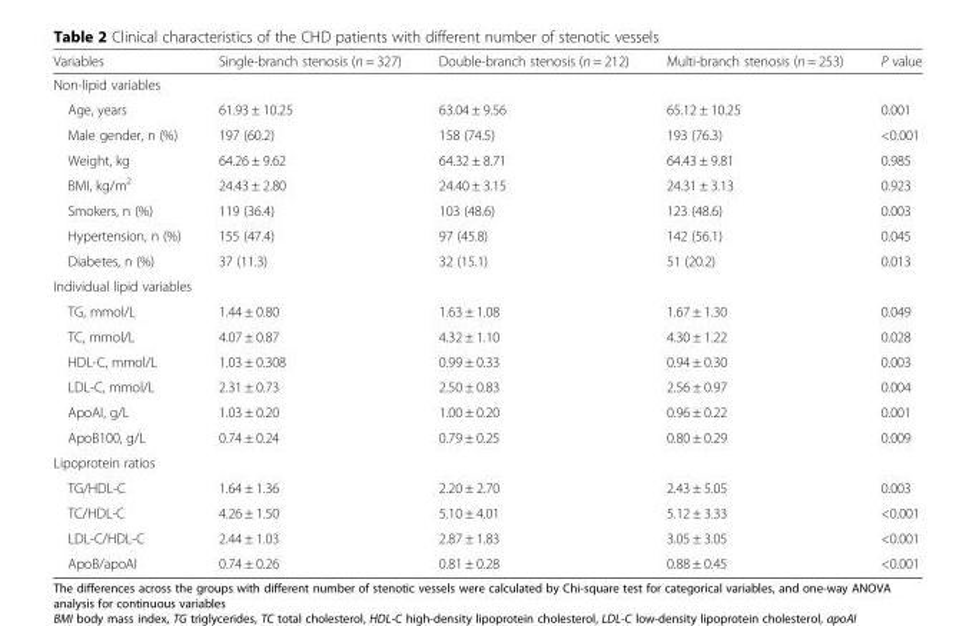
<table><thead><tr><td>Variables</td><td>Single-branch stenosis (n = 327)</td><td>Double-branch stenosis (n = 212)</td><td>Multi-branch stenosis (n = 253)</td><td>P value</td></tr></thead><tbody><tr><td colspan="5">Non-lipid variables</td></tr><tr><td>Age, years</td><td>61.93 ± 10.25</td><td>63.04 ± 9.56</td><td>65.12 ± 10.25</td><td>0.001</td></tr><tr><td>Male gender, n (%)</td><td>197 (60.2)</td><td>158 (74.5)</td><td>193 (76.3)</td><td>&lt;0.001</td></tr><tr><td>Weight, kg</td><td>64.26 ± 9.62</td><td>64.32 ± 8.71</td><td>64.43 ± 9.81</td><td>0.985</td></tr><tr><td>BMI, kg/m<sup>2</sup></td><td>24.43 ± 2.80</td><td>24.40 ± 3.15</td><td>24.31 ± 3.13</td><td>0.923</td></tr><tr><td>Smokers, n (%)</td><td>119 (36.4)</td><td>103 (48.6)</td><td>123 (48.6)</td><td>0.003</td></tr><tr><td>Hypertension, n (%)</td><td>155 (47.4)</td><td>97 (45.8)</td><td>142 (56.1)</td><td>0.045</td></tr><tr><td>Diabetes, n (%)</td><td>37 (11.3)</td><td>32 (15.1)</td><td>51 (20.2)</td><td>0.013</td></tr><tr><td colspan="5">Individual lipid variables</td></tr><tr><td>TG, mmol/L</td><td>1.44 ± 0.80</td><td>1.63 ± 1.08</td><td>1.67 ± 1.30</td><td>0.049</td></tr><tr><td>TC, mmol/L</td><td>4.07 ± 0.87</td><td>4.32 ± 1.10</td><td>4.30 ± 1.22</td><td>0.028</td></tr><tr><td>HDL-C, mmol/L</td><td>1.03 ± 0.308</td><td>0.99 ± 0.33</td><td>0.94 ± 0.30</td><td>0.003</td></tr><tr><td>LDL-C, mmol/L</td><td>2.31 ± 0.73</td><td>2.50 ± 0.83</td><td>2.56 ± 0.97</td><td>0.004</td></tr><tr><td>ApoAI, g/L</td><td>1.03 ± 0.20</td><td>1.00 ± 0.20</td><td>0.96 ± 0.22</td><td>0.001</td></tr><tr><td>ApoB100, g/L</td><td>0.74 ± 0.24</td><td>0.79 ± 0.25</td><td>0.80 ± 0.29</td><td>0.009</td></tr><tr><td colspan="5">Lipoprotein ratios</td></tr><tr><td>TG/HDL-C</td><td>1.64 ± 1.36</td><td>2.20 ± 2.70</td><td>2.43 ± 5.05</td><td>0.003</td></tr><tr><td>TC/HDL-C</td><td>4.26 ± 1.50</td><td>5.10 ± 4.01</td><td>5.12 ± 3.33</td><td>&lt;0.001</td></tr><tr><td>LDL-C/HDL-C</td><td>2.44 ± 1.03</td><td>2.87 ± 1.83</td><td>3.05 ± 3.05</td><td>&lt;0.001</td></tr><tr><td>ApoB/apoAI</td><td>0.74 ± 0.26</td><td>0.81 ± 0.28</td><td>0.88 ± 0.45</td><td>&lt;0.001</td></tr></tbody></table>